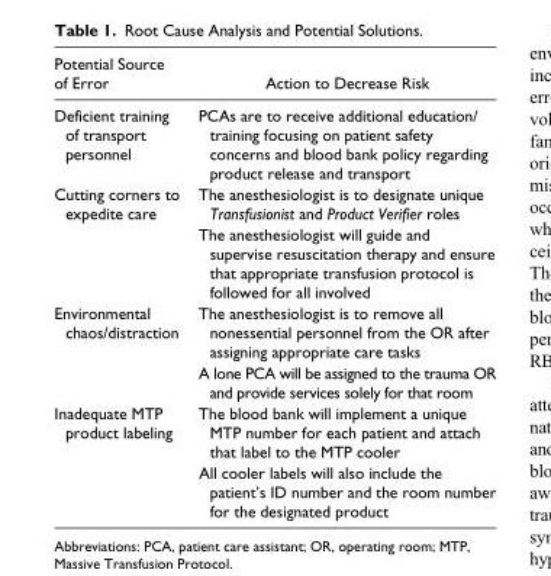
<table><thead><tr><td>Potential Source of Error</td><td>Action to Decrease Risk</td></tr></thead><tbody><tr><td>Deficient training of transport personnel</td><td>PCAs are to receive additional education/ training focusing on patient safety concerns and blood bank policy regarding product release and transport</td></tr><tr><td rowspan="2">Cutting corners to expedite care</td><td>The anesthesiologist is to designate unique Transfusionist and Product Verifier roles</td></tr><tr><td>The anesthesiologist will guide and supervise resuscitation therapy and ensure that appropriate transfusion protocol is followed for all involved</td></tr><tr><td rowspan="2">Environmental chaos/distraction</td><td>The anesthesiologist is to remove all nonessential personnel from the OR after assigning appropriate care tasks</td></tr><tr><td>A lone PCA will be assigned to the trauma OR and provide services solely for that room</td></tr><tr><td rowspan="2">Inadequate MTP product labeling</td><td>The blood bank will implement a unique MTP number for each patient and attach that label to the MTP cooler</td></tr><tr><td>All cooler labels will also include the patient’s ID number and the room number for the designated product</td></tr></tbody></table>